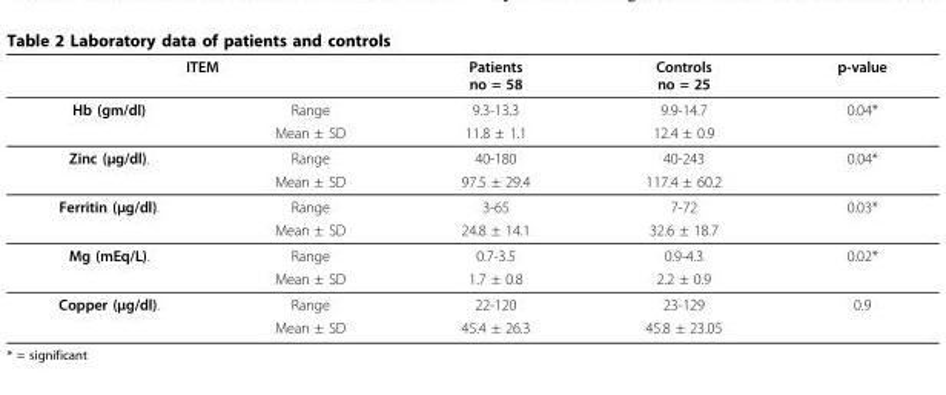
<table><thead><tr><td colspan="2">ITEM</td><td rowspan="2">Patients no = 58 9.3-13.3</td><td rowspan="2">Controls no = 25 9.9-14.7</td><td rowspan="2">p-value 0.04*</td></tr><tr><td>Hb (gm/dl)</td><td>Range</td></tr></thead><tbody><tr><td></td><td>Mean ± SD</td><td>11.8 ± 1.1</td><td>12.4 ± 0.9</td><td></td></tr><tr><td rowspan="2">Zinc (μg/dl).</td><td>Range</td><td>40-180</td><td>40-243</td><td>0.04*</td></tr><tr><td>Mean ± SD</td><td>97.5 ± 29.4</td><td>117.4 ± 60.2</td><td></td></tr><tr><td rowspan="2">Ferritin (μg/dl).</td><td>Range</td><td>3-65</td><td>7-72</td><td>0.03*</td></tr><tr><td>Mean ± SD</td><td>24.8 ± 14.1</td><td>32.6 ± 18.7</td><td></td></tr><tr><td rowspan="2">Mg (mEq/L).</td><td>Range</td><td>0.7-3.5</td><td>0.9-4.3</td><td>0.02*</td></tr><tr><td>Mean ± SD</td><td>1.7 ± 0.8</td><td>2.2 ± 0.9</td><td></td></tr><tr><td rowspan="2">Copper (μg/dl).</td><td>Range</td><td>22-120</td><td>23-129</td><td>0.9</td></tr><tr><td>Mean ± SD</td><td>45.4 ± 26.3</td><td>45.8 ± 23.05</td><td></td></tr></tbody></table>